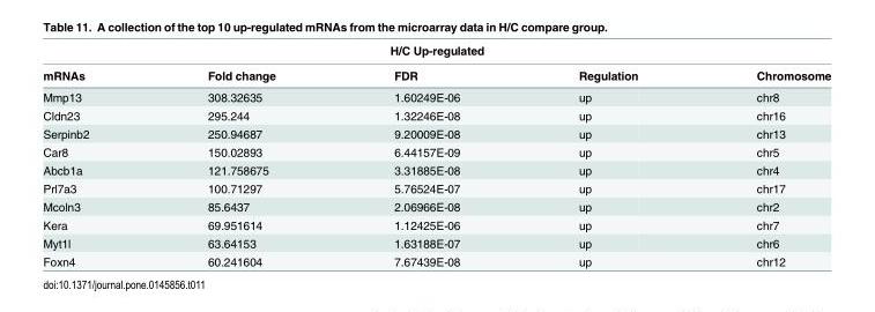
<table><thead><tr><td colspan="5">H/C Up-regulated</td></tr><tr><td>mRNAs</td><td>Fold change</td><td>FDR</td><td>Regulation</td><td>Chromosome</td></tr></thead><tbody><tr><td>Mmp13</td><td>308.32635</td><td>1.60249E-06</td><td>up</td><td>chr8</td></tr><tr><td>Cldn23</td><td>295.244</td><td>1.32246E-08</td><td>up</td><td>chr16</td></tr><tr><td>Serpinb2</td><td>250.94687</td><td>9.20009E-08</td><td>up</td><td>chr13</td></tr><tr><td>Car8</td><td>150.02893</td><td>6.44157E-09</td><td>up</td><td>chr5</td></tr><tr><td>Abcb1a</td><td>121.758675</td><td>3.31885E-08</td><td>up</td><td>chr4</td></tr><tr><td>Prl7a3</td><td>100.71297</td><td>5.76524E-07</td><td>up</td><td>chr17</td></tr><tr><td>Mcoln3</td><td>85.6437</td><td>2.06966E-08</td><td>up</td><td>chr2</td></tr><tr><td>Kera</td><td>69.951614</td><td>1.12425E-06</td><td>up</td><td>chr7</td></tr><tr><td>Myt1l</td><td>63.64153</td><td>1.63188E-07</td><td>up</td><td>chr6</td></tr><tr><td>Foxn4</td><td>60.241604</td><td>7.67439E-08</td><td>up</td><td>chr12</td></tr></tbody></table>